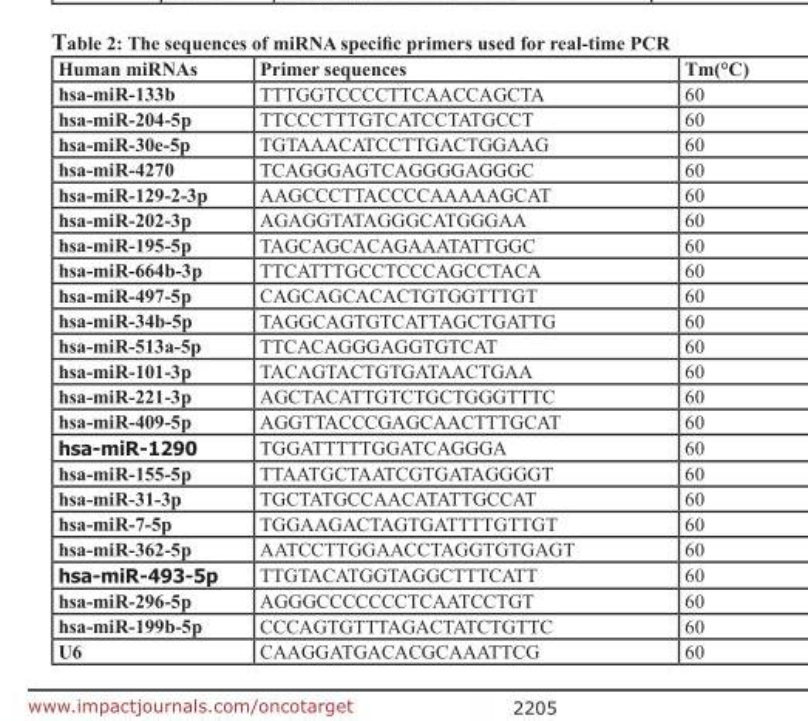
<table><thead><tr><td>Human miRNAs</td><td>Primer sequences</td><td>Tm(°C)</td></tr></thead><tbody><tr><td>hsa-miR-133b</td><td>TTTGGTCCCCTTCAACCAGCTA</td><td>60</td></tr><tr><td>hsa-miR-204-5p</td><td>TTCCCTTTGTCATCCTATGCCT</td><td>60</td></tr><tr><td>hsa-miR-30e-5p</td><td>TGTAAACATCCTTGACTGGAAG</td><td>60</td></tr><tr><td>hsa-miR-4270</td><td>TCAGGGAGTCAGGGGAGGGC</td><td>60</td></tr><tr><td>hsa-miR-129-2-3p</td><td>AAGCCCTTACCCCAAAAAGCAT</td><td>60</td></tr><tr><td>hsa-miR-202-3p</td><td>AGAGGTATAGGGCATGGGAA</td><td>60</td></tr><tr><td>hsa-miR-195-5p</td><td>TAGCAGCACAGAAATATTGGC</td><td>60</td></tr><tr><td>hsa-miR-664b-3p</td><td>TTCATTTGCCTCCCAGCCTACA</td><td>60</td></tr><tr><td>hsa-miR-497-5p</td><td>CAGCAGCACACTGTGGTTTGT</td><td>60</td></tr><tr><td>hsa-miR-34b-5p</td><td>TAGGCAGTGTCATTAGCTGATTG</td><td>60</td></tr><tr><td>hsa-miR-513a-5p</td><td>TTCACAGGGAGGTGTCAT</td><td>60</td></tr><tr><td>hsa-miR-101-3p</td><td>TACAGTACTGTGATAACTGAA</td><td>60</td></tr><tr><td>hsa-miR-221-3p</td><td>AGCTACATTGTCTGCTGGGTTTC</td><td>60</td></tr><tr><td>hsa-miR-409-5p</td><td>AGGTTACCCGAGCAACTTTGCAT</td><td>60</td></tr><tr><td>hsa-miR-1290</td><td>TGGATTTTTGGATCAGGGA</td><td>60</td></tr><tr><td>hsa-miR-155-5p</td><td>TTAATGCTAATCGTGATAGGGGT</td><td>60</td></tr><tr><td>hsa-miR-31-3p</td><td>TGCTATGCCAACATATTGCCAT</td><td>60</td></tr><tr><td>hsa-miR-7-5p</td><td>TGGAAGACTAGTGATTTTGTTGT</td><td>60</td></tr><tr><td>hsa-miR-362-5p</td><td>AATCCTTGGAACCTAGGTGTGAGT</td><td>60</td></tr><tr><td>hsa-miR-493-5p</td><td>TTGTACATGGTAGGCTTTCATT</td><td>60</td></tr><tr><td>hsa-miR-296-5p</td><td>AGGGCCCCCCCTCAATCCTGT</td><td>60</td></tr><tr><td>hsa-miR-199b-5p</td><td>CCCAGTGTTTAGACTATCTGTTC</td><td>60</td></tr><tr><td>U6</td><td>CAAGGATGACACGCAAATTCG</td><td>60</td></tr></tbody></table>